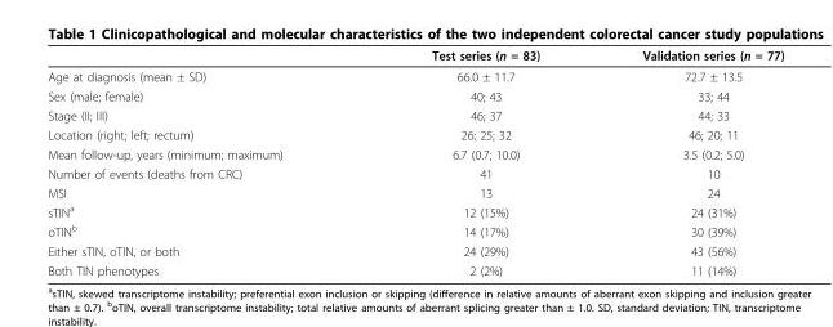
<table><thead><tr><td></td><td>Test series (n = 83)</td><td>Validation series (n = 77)</td></tr></thead><tbody><tr><td>Age at diagnosis (mean ± SD)</td><td>66.0 ± 11.7</td><td>72.7 ± 13.5</td></tr><tr><td>Sex (male; female)</td><td>40; 43</td><td>33; 44</td></tr><tr><td>Stage (II; III)</td><td>46; 37</td><td>44; 33</td></tr><tr><td>Location (right; left; rectum)</td><td>26; 25; 32</td><td>46; 20; 11</td></tr><tr><td>Mean follow-up, years (minimum; maximum)</td><td>6.7 (0.7; 10.0)</td><td>3.5 (0.2; 5.0)</td></tr><tr><td>Number of events (deaths from CRC)</td><td>41</td><td>10</td></tr><tr><td>MSI</td><td>13</td><td>24</td></tr><tr><td>sTIN<sup>a</sup></td><td>12 (15%)</td><td>24 (31%)</td></tr><tr><td>oTIN<sup>b</sup></td><td>14 (17%)</td><td>30 (39%)</td></tr><tr><td>Either sTIN, oTIN, or both</td><td>24 (29%)</td><td>43 (56%)</td></tr><tr><td>Both TIN phenotypes</td><td>2 (2%)</td><td>11 (14%)</td></tr></tbody></table>